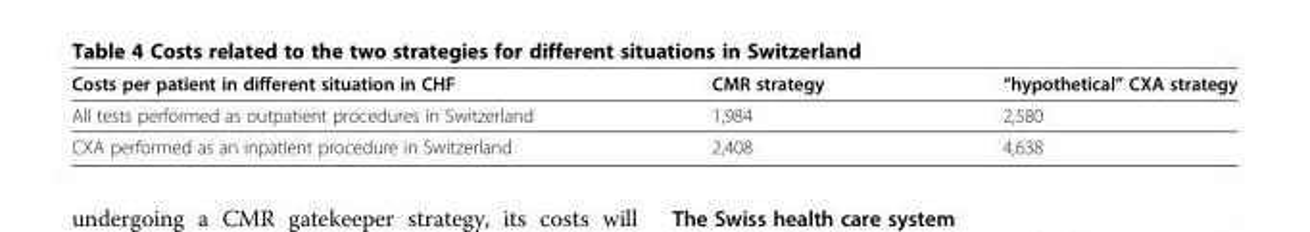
<table><thead><tr><td>Costs per patient in different situation in CHF</td><td>CMR strategy</td><td>“hypothetical” CXA strategy</td></tr></thead><tbody><tr><td>All tests performed as outpatient procedures in Switzerland</td><td>1,984</td><td>2,580</td></tr><tr><td>CXA performed as an inpatient procedure in Switzerland</td><td>2,408</td><td>4,638</td></tr></tbody></table>